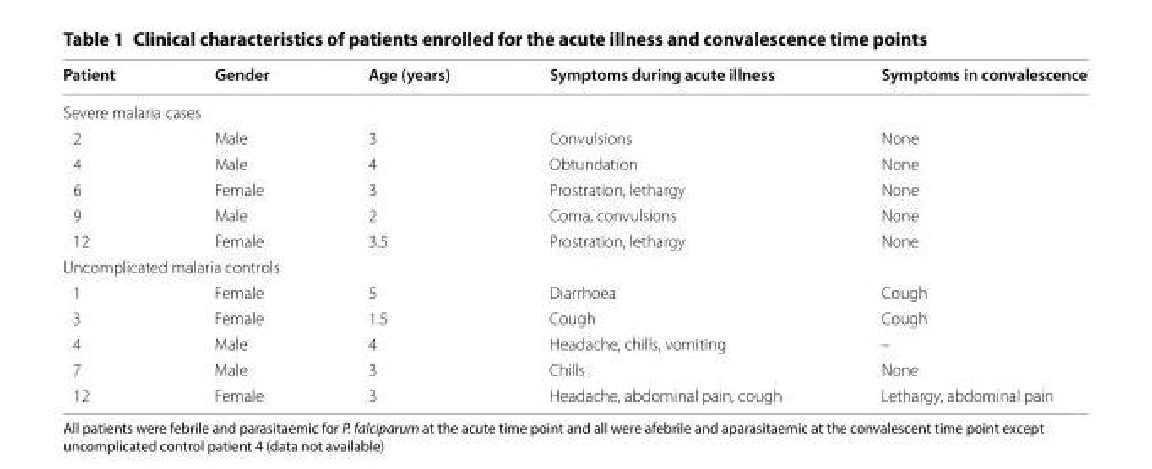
<table><thead><tr><td>Patient</td><td>Gender</td><td>Age (years)</td><td>Symptoms during acute illness</td><td>Symptoms in convalescence</td></tr></thead><tbody><tr><td colspan="5">Severe malaria cases</td></tr><tr><td>2</td><td>Male</td><td>3</td><td>Convulsions</td><td>None</td></tr><tr><td>4</td><td>Male</td><td>4</td><td>Obtundation</td><td>None</td></tr><tr><td>6</td><td>Female</td><td>3</td><td>Prostration, lethargy</td><td>None</td></tr><tr><td>9</td><td>Male</td><td>2</td><td>Coma, convulsions</td><td>None</td></tr><tr><td>12</td><td>Female</td><td>3.5</td><td>Prostration, lethargy</td><td>None</td></tr><tr><td colspan="5">Uncomplicated malaria controls</td></tr><tr><td>1</td><td>Female</td><td>5</td><td>Diarrhoea</td><td>Cough</td></tr><tr><td>3</td><td>Female</td><td>1.5</td><td>Cough</td><td>Cough</td></tr><tr><td>4</td><td>Male</td><td>4</td><td>Headache, chills, vomiting</td><td>–</td></tr><tr><td>7</td><td>Male</td><td>3</td><td>Chills</td><td>None</td></tr><tr><td>12</td><td>Female</td><td>3</td><td>Headache, abdominal pain, cough</td><td>Lethargy, abdominal pain</td></tr></tbody></table>